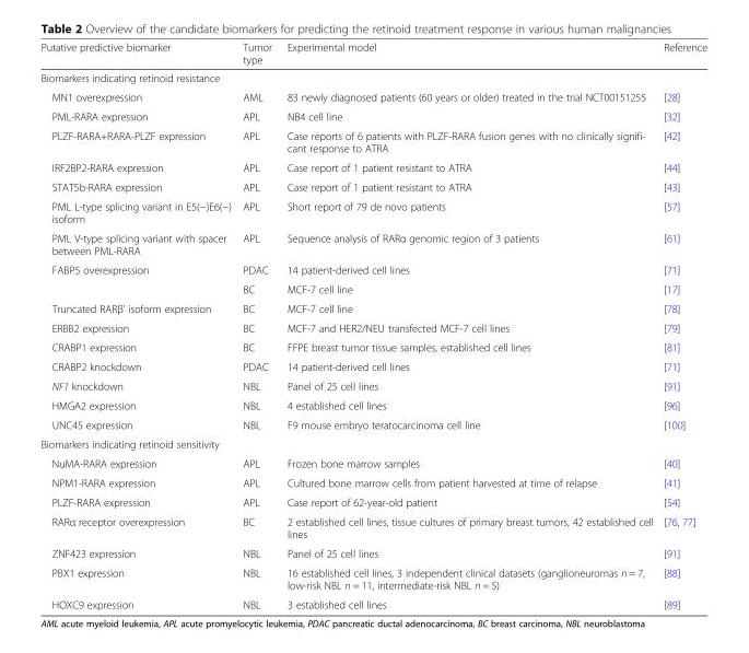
<table><thead><tr><td>Putative predictive biomarker</td><td>Tumor type</td><td>Experimental model</td><td>Reference</td></tr></thead><tbody><tr><td colspan="4">Biomarkers indicating retinoid resistance</td></tr><tr><td>MN1 overexpression</td><td>AML</td><td>83 newly diagnosed patients (60 years or older) treated in the trial NCT00151255</td><td>[28]</td></tr><tr><td>PML-RARA expression</td><td>APL</td><td>NB4 cell line</td><td>[32]</td></tr><tr><td>PLZF-RARA+RARA-PLZF expression</td><td>APL</td><td>Case reports of 6 patients with PLZF-RARA fusion genes with no clinically signifi- cant response to ATRA</td><td>[42]</td></tr><tr><td>IRF2BP2-RARA expression</td><td>APL</td><td>Case report of 1 patient resistant to ATRA</td><td>[44]</td></tr><tr><td>STAT5b-RARA expression</td><td>APL</td><td>Case report of 1 patient resistant to ATRA</td><td>[43]</td></tr><tr><td>PML L-type splicing variant in E5(−)E6(−) isoform</td><td>APL</td><td>Short report of 79 de novo patients</td><td>[57]</td></tr><tr><td>PML V-type splicing variant with spacer between PML-RARA</td><td>APL</td><td>Sequence analysis of RARα genomic region of 3 patients</td><td>[61]</td></tr><tr><td rowspan="2">FABP5 overexpression</td><td>PDAC</td><td>14 patient-derived cell lines</td><td>[71]</td></tr><tr><td>BC</td><td>MCF-7 cell line</td><td>[17]</td></tr><tr><td>Truncated RARβ’ isoform expression</td><td>BC</td><td>MCF-7 cell line</td><td>[78]</td></tr><tr><td>ERBB2 expression</td><td>BC</td><td>MCF-7 and HER2/NEU transfected MCF-7 cell lines</td><td>[79]</td></tr><tr><td>CRABP1 expression</td><td>BC</td><td>FFPE breast tumor tissue samples, established cell lines</td><td>[81]</td></tr><tr><td>CRABP2 knockdown</td><td>PDAC</td><td>14 patient-derived cell lines</td><td>[71]</td></tr><tr><td>NF1 knockdown</td><td>NBL</td><td>Panel of 25 cell lines</td><td>[91]</td></tr><tr><td>HMGA2 expression</td><td>NBL</td><td>4 established cell lines</td><td>[96]</td></tr><tr><td>UNC45 expression</td><td>NBL</td><td>F9 mouse embryo teratocarcinoma cell line</td><td>[100]</td></tr><tr><td colspan="4">Biomarkers indicating retinoid sensitivity</td></tr><tr><td>NuMA-RARA expression</td><td>APL</td><td>Frozen bone marrow samples</td><td>[40]</td></tr><tr><td>NPM1-RARA expression</td><td>APL</td><td>Cultured bone marrow cells from patient harvested at time of relapse</td><td>[41]</td></tr><tr><td>PLZF-RARA expression</td><td>APL</td><td>Case report of 62-year-old patient</td><td>[54]</td></tr><tr><td>RARα receptor overexpression</td><td>BC</td><td>2 established cell lines, tissue cultures of primary breast tumors, 42 established cell lines</td><td>[76, 77]</td></tr><tr><td>ZNF423 expression</td><td>NBL</td><td>Panel of 25 cell lines</td><td>[91]</td></tr><tr><td>PBX1 expression</td><td>NBL</td><td>16 established cell lines, 3 independent clinical datasets (ganglioneuromas n = 7, low-risk NBL n = 11, intermediate-risk NBL n = 5)</td><td>[88]</td></tr><tr><td>HOXC9 expression</td><td>NBL</td><td>3 established cell lines</td><td>[89]</td></tr></tbody></table>